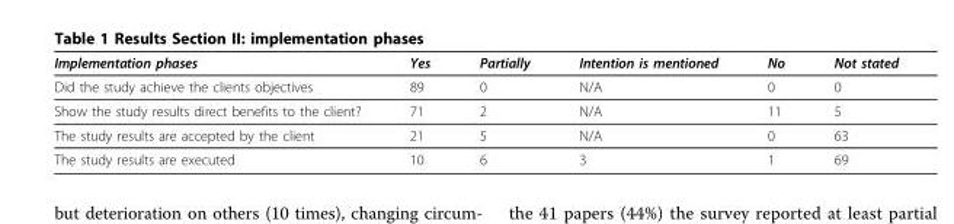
<table><thead><tr><td>Implementation phases</td><td>Yes</td><td>Partially</td><td>Intention is mentioned</td><td>No</td><td>Not stated</td></tr></thead><tbody><tr><td>Did the study achieve the clients objectives</td><td>89</td><td>0</td><td>N/A</td><td>0</td><td>0</td></tr><tr><td>Show the study results direct benefits to the client?</td><td>71</td><td>2</td><td>N/A</td><td>11</td><td>5</td></tr><tr><td>The study results are accepted by the client</td><td>21</td><td>5</td><td>N/A</td><td>0</td><td>63</td></tr><tr><td>The study results are executed</td><td>10</td><td>6</td><td>3</td><td>1</td><td>69</td></tr></tbody></table>